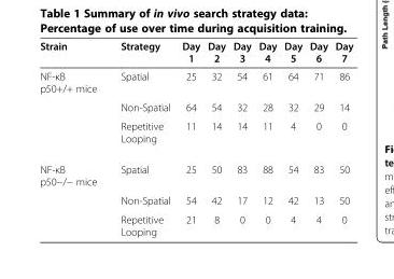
<table><thead><tr><td>Strain</td><td>Strategy</td><td>Day 1</td><td>Day 2</td><td>Day 3</td><td>Day 4</td><td>Day 5</td><td>Day 6</td><td>Day 7</td></tr></thead><tbody><tr><td rowspan="3">NF-κB p50+/+ mice</td><td>Spatial</td><td>25</td><td>32</td><td>54</td><td>61</td><td>64</td><td>71</td><td>86</td></tr><tr><td>Non-Spatial</td><td>64</td><td>54</td><td>32</td><td>28</td><td>32</td><td>29</td><td>14</td></tr><tr><td>Repetitive Looping</td><td>11</td><td>14</td><td>14</td><td>11</td><td>4</td><td>0</td><td>0</td></tr><tr><td rowspan="3">NF-κB p50−/− mice</td><td>Spatial</td><td>25</td><td>50</td><td>83</td><td>88</td><td>54</td><td>83</td><td>50</td></tr><tr><td>Non-Spatial</td><td>54</td><td>42</td><td>17</td><td>12</td><td>42</td><td>13</td><td>50</td></tr><tr><td>Repetitive Looping</td><td>21</td><td>8</td><td>0</td><td>0</td><td>4</td><td>4</td><td>0</td></tr></tbody></table>